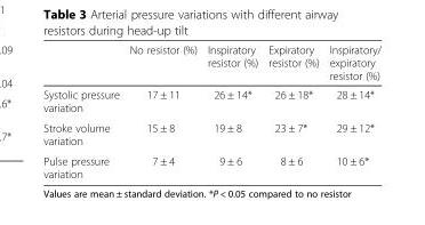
<table><thead><tr><td></td><td>No resistor (%)</td><td>Inspiratory resistor (%)</td><td>Expiratory resistor (%)</td><td>Inspiratory/ expiratory resistor (%)</td></tr></thead><tbody><tr><td>Systolic pressure variation</td><td>17 ± 11</td><td>26 ± 14*</td><td>26 ± 18*</td><td>28 ± 14*</td></tr><tr><td>Stroke volume variation</td><td>15 ± 8</td><td>19 ± 8</td><td>23 ± 7*</td><td>29 ± 12*</td></tr><tr><td>Pulse pressure variation</td><td>7 ± 4</td><td>9 ± 6</td><td>8 ± 6</td><td>10 ± 6*</td></tr></tbody></table>